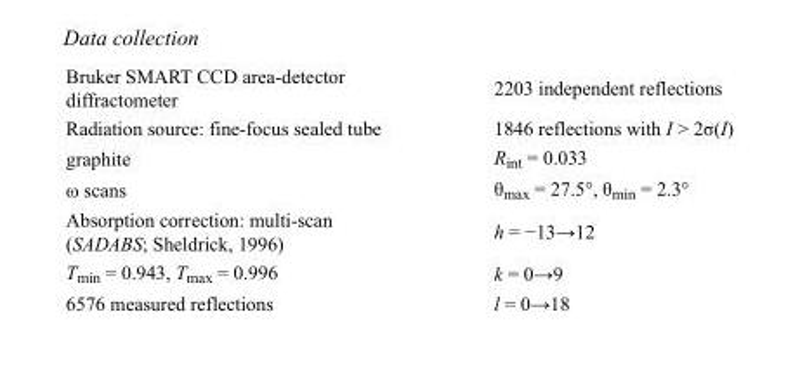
<table><tbody><tr><td>Bruker SMART CCD area-detector diffractometer</td><td>2203 independent reflections</td></tr><tr><td>Radiation source: fine-focus sealed tube</td><td>1846 reflections with I &gt; 2σ(I)</td></tr><tr><td>graphite</td><td>R<sub>int</sub> = 0.033</td></tr><tr><td>ω scans</td><td>θ<sub>max</sub> = 27.5°, θ<sub>min</sub> = 2.3°</td></tr><tr><td>Absorption correction: multi-scan (SADABS; Sheldrick, 1996)</td><td>h = −13→12</td></tr><tr><td>T<sub>min</sub> = 0.943, T<sub>max</sub> = 0.996</td><td>k = 0→9</td></tr><tr><td>6576 measured reflections</td><td>l = 0→18</td></tr></tbody></table>